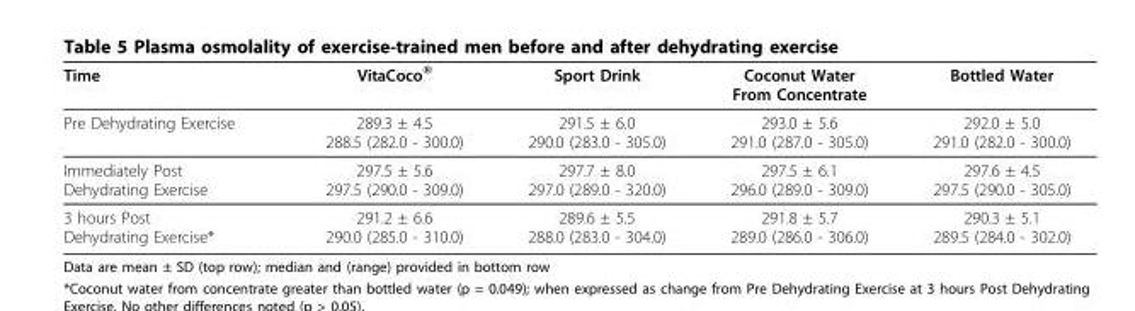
<table><thead><tr><td>Time</td><td>VitaCoco<sup>®</sup></td><td>Sport Drink</td><td>Coconut Water From Concentrate</td><td>Bottled Water</td></tr></thead><tbody><tr><td>Pre Dehydrating Exercise</td><td>289.3 ± 4.5 288.5 (282.0 - 300.0)</td><td>291.5 ± 6.0 290.0 (283.0 - 305.0)</td><td>293.0 ± 5.6 291.0 (287.0 - 305.0)</td><td>292.0 ± 5.0 291.0 (282.0 - 300.0)</td></tr><tr><td>Immediately Post Dehydrating Exercise</td><td>297.5 ± 5.6 297.5 (290.0 - 309.0)</td><td>297.7 ± 8.0 297.0 (289.0 - 320.0)</td><td>297.5 ± 6.1 296.0 (289.0 - 309.0)</td><td>297.6 ± 4.5 297.5 (290.0 - 305.0)</td></tr><tr><td>3 hours Post Dehydrating Exercise*</td><td>291.2 ± 6.6 290.0 (285.0 - 310.0)</td><td>289.6 ± 5.5 288.0 (283.0 - 304.0)</td><td>291.8 ± 5.7 289.0 (286.0 - 306.0)</td><td>290.3 ± 5.1 289.5 (284.0 - 302.0)</td></tr></tbody></table>